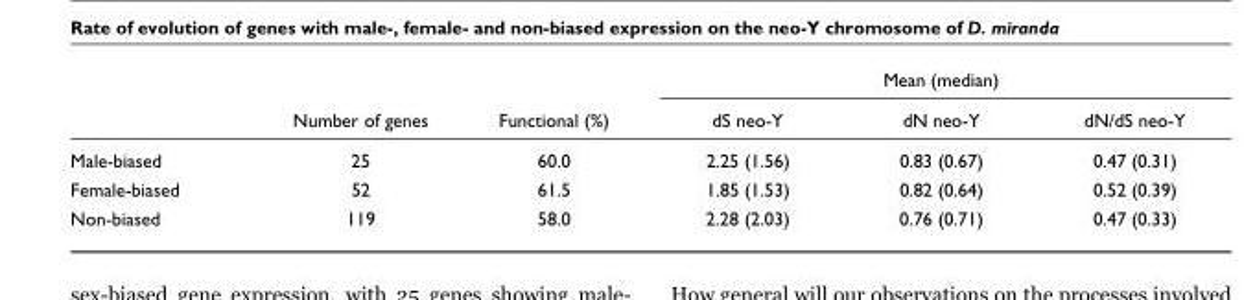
<table><thead><tr><td rowspan="2"></td><td rowspan="2">Number of genes</td><td rowspan="2">Functional (%)</td><td colspan="3">Mean (median)</td></tr><tr><td>dS neo-Y</td><td>dN neo-Y</td><td>dN/dS neo-Y</td></tr></thead><tbody><tr><td>Male-biased</td><td>25</td><td>60.0</td><td>2.25 (1.56)</td><td>0.83 (0.67)</td><td>0.47 (0.31)</td></tr><tr><td>Female-biased</td><td>52</td><td>61.5</td><td>1.85 (1.53)</td><td>0.82 (0.64)</td><td>0.52 (0.39)</td></tr><tr><td>Non-biased</td><td>119</td><td>58.0</td><td>2.28 (2.03)</td><td>0.76 (0.71)</td><td>0.47 (0.33)</td></tr></tbody></table>